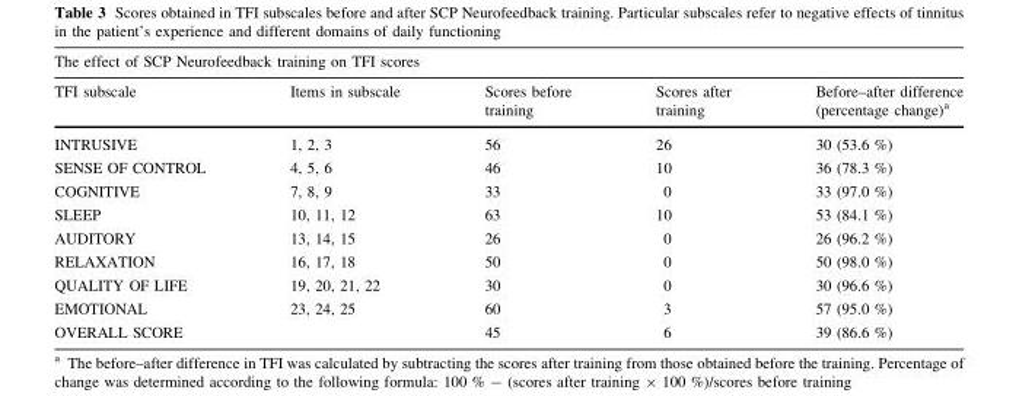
<table><thead><tr><td colspan="5">The effect of SCP Neurofeedback training on TFI scores</td></tr><tr><td>TFI subscale</td><td>Items in subscale</td><td>Scores before training</td><td>Scores after training</td><td>Before–after difference (percentage change)<sup>a</sup></td></tr></thead><tbody><tr><td>INTRUSIVE</td><td>1, 2, 3</td><td>56</td><td>26</td><td>30 (53.6 %)</td></tr><tr><td>SENSE OF CONTROL</td><td>4, 5, 6</td><td>46</td><td>10</td><td>36 (78.3 %)</td></tr><tr><td>COGNITIVE</td><td>7, 8, 9</td><td>33</td><td>0</td><td>33 (97.0 %)</td></tr><tr><td>SLEEP</td><td>10, 11, 12</td><td>63</td><td>10</td><td>53 (84.1 %)</td></tr><tr><td>AUDITORY</td><td>13, 14, 15</td><td>26</td><td>0</td><td>26 (96.2 %)</td></tr><tr><td>RELAXATION</td><td>16, 17, 18</td><td>50</td><td>0</td><td>50 (98.0 %)</td></tr><tr><td>QUALITY OF LIFE</td><td>19, 20, 21, 22</td><td>30</td><td>0</td><td>30 (96.6 %)</td></tr><tr><td>EMOTIONAL</td><td>23, 24, 25</td><td>60</td><td>3</td><td>57 (95.0 %)</td></tr><tr><td>OVERALL SCORE</td><td></td><td>45</td><td>6</td><td>39 (86.6 %)</td></tr></tbody></table>